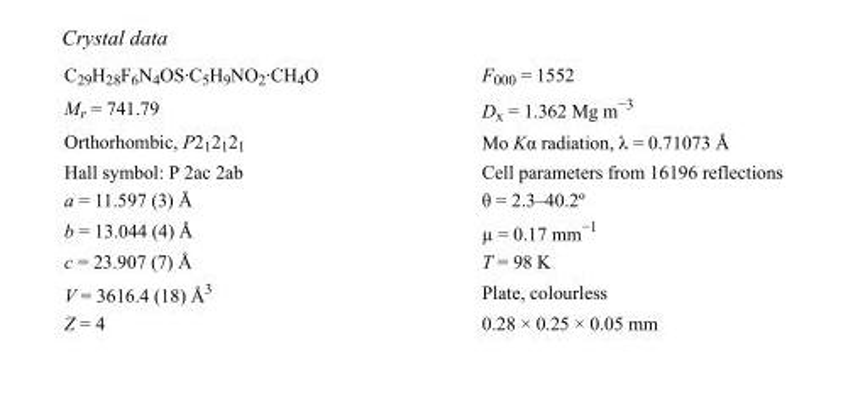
<table><tbody><tr><td>C<sub>29</sub>H<sub>28</sub>F<sub>6</sub>N<sub>4</sub>OS·C<sub>5</sub>H<sub>9</sub>NO<sub>2</sub>·CH<sub>4</sub>O</td><td>F000 = 1552</td></tr><tr><td>M<sub>r</sub> = 741.79</td><td>D<sub>x</sub> = 1.362 Mg m<sup>−3</sup></td></tr><tr><td>Orthorhombic, P2<sub>1</sub>2<sub>1</sub>2<sub>1</sub></td><td>Mo Kα radiation, λ = 0.71073 Å</td></tr><tr><td>Hall symbol: P 2ac 2ab</td><td>Cell parameters from 16196 reflections</td></tr><tr><td>a = 11.597 (3) Å</td><td>θ = 2.3–40.2º</td></tr><tr><td>b = 13.044 (4) Å</td><td>µ = 0.17 mm<sup>−1</sup></td></tr><tr><td>c = 23.907 (7) Å</td><td>T = 98 K</td></tr><tr><td>V = 3616.4 (18) Å<sup>3</sup></td><td>Plate, colourless</td></tr><tr><td>Z = 4</td><td>0.28 × 0.25 × 0.05 mm</td></tr></tbody></table>